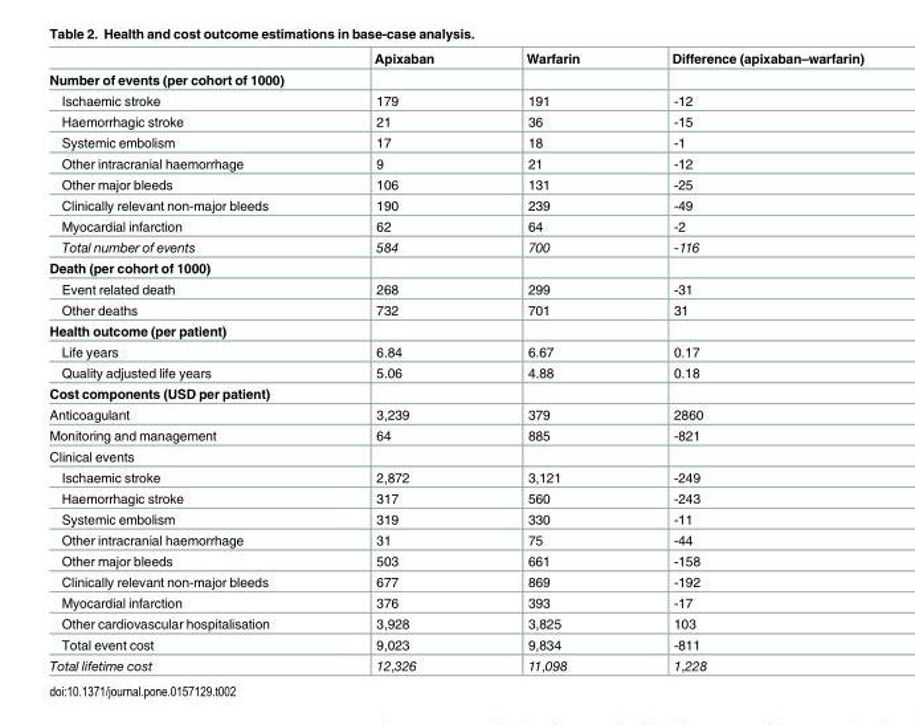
<table><thead><tr><td></td><td>Apixaban</td><td>Warfarin</td><td>Difference (apixaban–warfarin)</td></tr></thead><tbody><tr><td colspan="4">Number of events (per cohort of 1000)</td></tr><tr><td>Ischaemic stroke</td><td>179</td><td>191</td><td>-12</td></tr><tr><td>Haemorrhagic stroke</td><td>21</td><td>36</td><td>-15</td></tr><tr><td>Systemic embolism</td><td>17</td><td>18</td><td>-1</td></tr><tr><td>Other intracranial haemorrhage</td><td>9</td><td>21</td><td>-12</td></tr><tr><td>Other major bleeds</td><td>106</td><td>131</td><td>-25</td></tr><tr><td>Clinically relevant non-major bleeds</td><td>190</td><td>239</td><td>-49</td></tr><tr><td>Myocardial infarction</td><td>62</td><td>64</td><td>-2</td></tr><tr><td>Total number of events</td><td>584</td><td>700</td><td>-116</td></tr><tr><td colspan="4">Death (per cohort of 1000)</td></tr><tr><td>Event related death</td><td>268</td><td>299</td><td>-31</td></tr><tr><td>Other deaths</td><td>732</td><td>701</td><td>31</td></tr><tr><td colspan="4">Health outcome (per patient)</td></tr><tr><td>Life years</td><td>6.84</td><td>6.67</td><td>0.17</td></tr><tr><td>Quality adjusted life years</td><td>5.06</td><td>4.88</td><td>0.18</td></tr><tr><td colspan="4">Cost components (USD per patient)</td></tr><tr><td>Anticoagulant</td><td>3,239</td><td>379</td><td>2860</td></tr><tr><td>Monitoring and management</td><td>64</td><td>885</td><td>-821</td></tr><tr><td colspan="4">Clinical events</td></tr><tr><td>Ischaemic stroke</td><td>2,872</td><td>3,121</td><td>-249</td></tr><tr><td>Haemorrhagic stroke</td><td>317</td><td>560</td><td>-243</td></tr><tr><td>Systemic embolism</td><td>319</td><td>330</td><td>-11</td></tr><tr><td>Other intracranial haemorrhage</td><td>31</td><td>75</td><td>-44</td></tr><tr><td>Other major bleeds</td><td>503</td><td>661</td><td>-158</td></tr><tr><td>Clinically relevant non-major bleeds</td><td>677</td><td>869</td><td>-192</td></tr><tr><td>Myocardial infarction</td><td>376</td><td>393</td><td>-17</td></tr><tr><td>Other cardiovascular hospitalisation</td><td>3,928</td><td>3,825</td><td>103</td></tr><tr><td>Total event cost</td><td>9,023</td><td>9,834</td><td>-811</td></tr><tr><td>Total lifetime cost</td><td>12,326</td><td>11,098</td><td>1,228</td></tr></tbody></table>